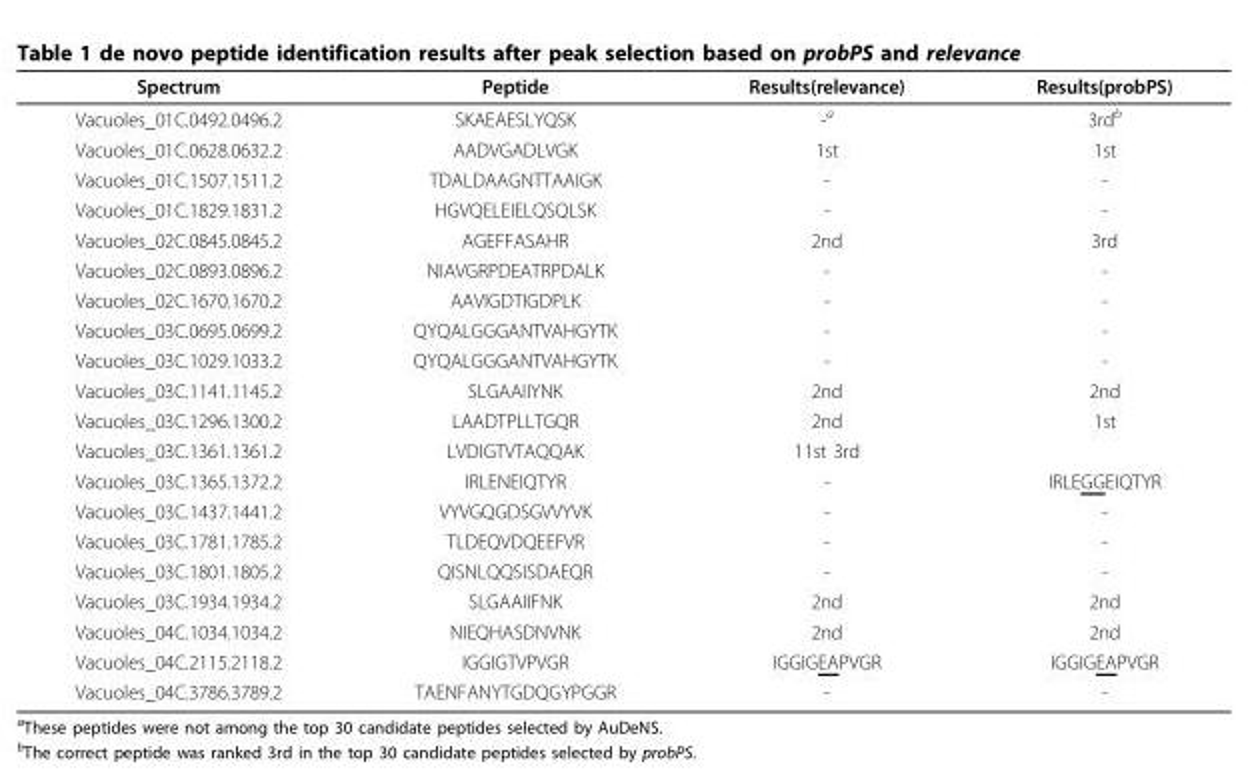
<table><thead><tr><td>Spectrum</td><td>Peptide</td><td>Results(relevance)</td><td>Results(probPS)</td></tr></thead><tbody><tr><td>Vacuoles_01C.0492.0496.2</td><td>SKAEAESLYQSK</td><td>-<sup>a</sup></td><td>3rd<sup>b</sup></td></tr><tr><td>Vacuoles_01C.0628.0632.2</td><td>AADVGADLVGK</td><td>1st</td><td>1st</td></tr><tr><td>Vacuoles_01C.1507.1511.2</td><td>TDALDAAGNTTAAIGK</td><td>-</td><td>-</td></tr><tr><td>Vacuoles_01C.1829.1831.2</td><td>HGVQELEIELQSQLSK</td><td>-</td><td>-</td></tr><tr><td>Vacuoles_02C.0845.0845.2</td><td>AGEFFASAHR</td><td>2nd</td><td>3rd</td></tr><tr><td>Vacuoles_02C.0893.0896.2</td><td>NIAVGRPDEATRPDALK</td><td>-</td><td>-</td></tr><tr><td>Vacuoles_02C.1670.1670.2</td><td>AAVIGDTIGDPLK</td><td>-</td><td>-</td></tr><tr><td>Vacuoles_03C.0695.0699.2</td><td>QYQALGGGANTVAHGYTK</td><td>-</td><td>-</td></tr><tr><td>Vacuoles_03C.1029.1033.2</td><td>QYQALGGGANTVAHGYTK</td><td>-</td><td>-</td></tr><tr><td>Vacuoles_03C.1141.1145.2</td><td>SLGAAIIYNK</td><td>2nd</td><td>2nd</td></tr><tr><td>Vacuoles_03C.1296.1300.2</td><td>LAADTPLLTGQR</td><td>2nd</td><td>1st</td></tr><tr><td>Vacuoles_03C.1361.1361.2</td><td>LVDIGTVTAQQAK</td><td>11st 3rd</td><td></td></tr><tr><td>Vacuoles_03C.1365.1372.2</td><td>IRLENEIQTYR</td><td>-</td><td>IRLEGGEIQTYR</td></tr><tr><td>Vacuoles_03C.1437.1441.2</td><td>VYVGQGDSGVVYVK</td><td>-</td><td>-</td></tr><tr><td>Vacuoles_03C.1781.1785.2</td><td>TLDEQVDQEEFVR</td><td>-</td><td>-</td></tr><tr><td>Vacuoles_03C.1801.1805.2</td><td>QISNLQQSISDAEQR</td><td>-</td><td>-</td></tr><tr><td>Vacuoles_03C.1934.1934.2</td><td>SLGAAIIFNK</td><td>2nd</td><td>2nd</td></tr><tr><td>Vacuoles_04C.1034.1034.2</td><td>NIEQHASDNVNK</td><td>2nd</td><td>2nd</td></tr><tr><td>Vacuoles_04C.2115.2118.2</td><td>IGGIGTVPVGR</td><td>IGGIGEAPVGR</td><td>IGGIGEAPVGR</td></tr><tr><td>Vacuoles_04C.3786.3789.2</td><td>TAENFANYTGDQGYPGGR</td><td>-</td><td>-</td></tr></tbody></table>